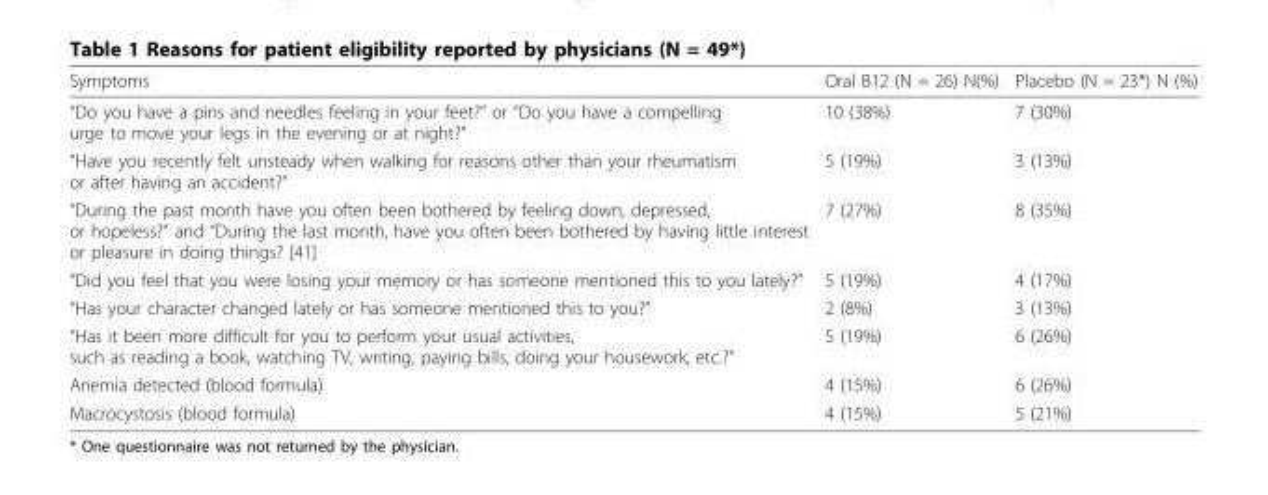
<table><thead><tr><td>Symptoms</td><td>Oral B12 (N = 26) N(%)</td><td>Placebo (N = 23*) N (%)</td></tr></thead><tbody><tr><td>“Do you have a pins and needles feeling in your feet?” or “Do you have a compelling urge to move your legs in the evening or at night?”</td><td>10 (38%)</td><td>7 (30%)</td></tr><tr><td>“Have you recently felt unsteady when walking for reasons other than your rheumatism or after having an accident?”</td><td>5 (19%)</td><td>3 (13%)</td></tr><tr><td>“During the past month have you often been bothered by feeling down, depressed, or hopeless?” and “During the last month, have you often been bothered by having little interest or pleasure in doing things? [41]</td><td>7 (27%)</td><td>8 (35%)</td></tr><tr><td>“Did you feel that you were losing your memory or has someone mentioned this to you lately?”</td><td>5 (19%)</td><td>4 (17%)</td></tr><tr><td>“Has your character changed lately or has someone mentioned this to you?”</td><td>2 (8%)</td><td>3 (13%)</td></tr><tr><td>“Has it been more difficult for you to perform your usual activities, such as reading a book, watching TV, writing, paying bills, doing your housework, etc.?”</td><td>5 (19%)</td><td>6 (26%)</td></tr><tr><td>Anemia detected (blood formula)</td><td>4 (15%)</td><td>6 (26%)</td></tr><tr><td>Macrocystosis (blood formula)</td><td>4 (15%)</td><td>5 (21%)</td></tr></tbody></table>